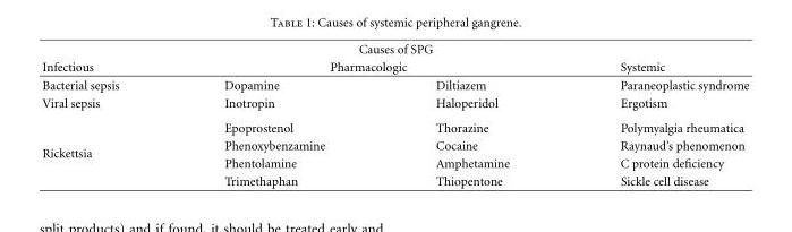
<table><thead><tr><td colspan="4">Causes of SPG</td></tr><tr><td rowspan="2">Infectious Bacterial sepsis</td><td colspan="2">Pharmacologic</td><td rowspan="2">Systemic Paraneoplastic syndrome</td></tr><tr><td>Dopamine</td><td>Diltiazem</td></tr></thead><tbody><tr><td>Viral sepsis</td><td>Inotropin</td><td>Haloperidol</td><td>Ergotism</td></tr><tr><td rowspan="4">Rickettsia</td><td>Epoprostenol</td><td>Thorazine</td><td>Polymyalgia rheumatica</td></tr><tr><td>Phenoxybenzamine</td><td>Cocaine</td><td>Raynaud’s phenomenon</td></tr><tr><td>Phentolamine</td><td>Amphetamine</td><td>C protein deficiency</td></tr><tr><td>Trimethaphan</td><td>Thiopentone</td><td>Sickle cell disease</td></tr></tbody></table>